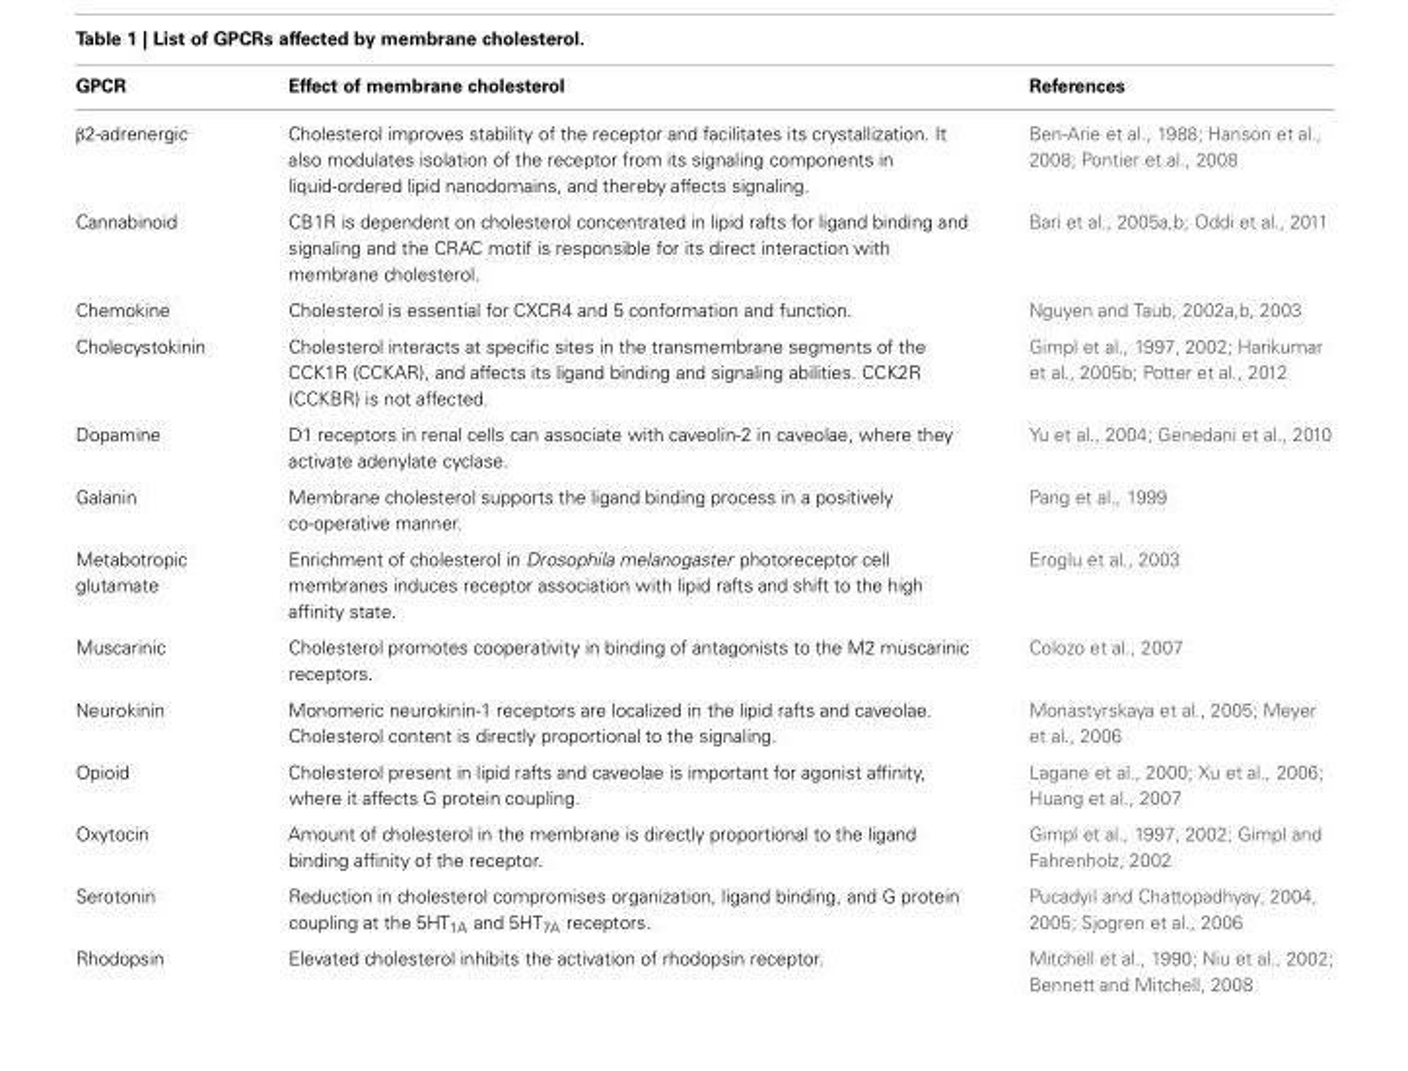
<table><thead><tr><td>GPCR</td><td>Effect of membrane cholesterol</td><td>References</td></tr></thead><tbody><tr><td>β2-adrenergic</td><td>Cholesterol improves stability of the receptor and facilitates its crystallization. It also modulates isolation of the receptor from its signaling components in liquid-ordered lipid nanodomains, and thereby affects signaling.</td><td>Ben-Arie et al., 1988; Hanson et al., 2008; Pontier et al., 2008</td></tr><tr><td>Cannabinoid</td><td>CB1R is dependent on cholesterol concentrated in lipid rafts for ligand binding and signaling and the CRAC motif is responsible for its direct interaction with membrane cholesterol.</td><td>Bari et al., 2005a,b; Oddi et al., 2011</td></tr><tr><td>Chemokine</td><td>Cholesterol is essential for CXCR4 and 5 conformation and function.</td><td>Nguyen and Taub, 2002a,b, 2003</td></tr><tr><td>Cholecystokinin</td><td>Cholesterol interacts at specific sites in the transmembrane segments of the CCK1R (CCKAR), and affects its ligand binding and signaling abilities. CCK2R (CCKBR) is not affected.</td><td>Gimpl et al., 1997, 2002; Harikumar et al., 2005b; Potter et al., 2012</td></tr><tr><td>Dopamine</td><td>D1 receptors in renal cells can associate with caveolin-2 in caveolae, where they activate adenylate cyclase.</td><td>Yu et al., 2004; Genedani et al., 2010</td></tr><tr><td>Galanin</td><td>Membrane cholesterol supports the ligand binding process in a positively co-operative manner.</td><td>Pang et al., 1999</td></tr><tr><td>Metabotropic glutamate</td><td>Enrichment of cholesterol in Drosophila melanogaster photoreceptor cell membranes induces receptor association with lipid rafts and shift to the high affinity state.</td><td>Eroglu et al., 2003</td></tr><tr><td>Muscarinic</td><td>Cholesterol promotes cooperativity in binding of antagonists to the M2 muscarinic receptors.</td><td>Colozo et al., 2007</td></tr><tr><td>Neurokinin</td><td>Monomeric neurokinin-1 receptors are localized in the lipid rafts and caveolae. Cholesterol content is directly proportional to the signaling.</td><td>Monastyrskaya et al., 2005; Meyer et al., 2006</td></tr><tr><td>Opioid</td><td>Cholesterol present in lipid rafts and caveolae is important for agonist affinity, where it affects G protein coupling.</td><td>Lagane et al., 2000; Xu et al., 2006; Huang et al., 2007</td></tr><tr><td>Oxytocin</td><td>Amount of cholesterol in the membrane is directly proportional to the ligand binding affinity of the receptor.</td><td>Gimpl et al., 1997, 2002; Gimpl and Fahrenholz, 2002</td></tr><tr><td>Serotonin</td><td>Reduction in cholesterol compromises organization, ligand binding, and G protein coupling at the 5HT<sub>1A</sub> and 5HT<sub>7A</sub> receptors.</td><td>Pucadyil and Chattopadhyay, 2004, 2005; Sjogren et al., 2006</td></tr><tr><td>Rhodopsin</td><td>Elevated cholesterol inhibits the activation of rhodopsin receptor.</td><td>Mitchell et al., 1990; Niu et al., 2002; Bennett and Mitchell, 2008</td></tr></tbody></table>